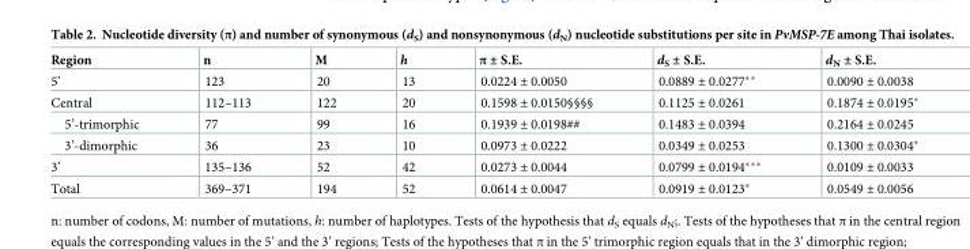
<table><thead><tr><td>Region</td><td>n</td><td>M</td><td>h</td><td>π ± S.E.</td><td>d<sub>S</sub> ± S.E.</td><td>d<sub>N</sub> ± S.E.</td></tr></thead><tbody><tr><td>5’</td><td>123</td><td>20</td><td>13</td><td>0.0224 ± 0.0050</td><td>0.0889 ± 0.0277**</td><td>0.0090 ± 0.0038</td></tr><tr><td>Central</td><td>112–113</td><td>122</td><td>20</td><td>0.1598 ± 0.0150§§§§</td><td>0.1125 ± 0.0261</td><td>0.1874 ± 0.0195*</td></tr><tr><td>5’-trimorphic</td><td>77</td><td>99</td><td>16</td><td>0.1939 ± 0.0198##</td><td>0.1483 ± 0.0394</td><td>0.2164 ± 0.0245</td></tr><tr><td>3’-dimorphic</td><td>36</td><td>23</td><td>10</td><td>0.0973 ± 0.0222</td><td>0.0349 ± 0.0253</td><td>0.1300 ± 0.0304*</td></tr><tr><td>3’</td><td>135–136</td><td>52</td><td>42</td><td>0.0273 ± 0.0044</td><td>0.0799 ± 0.0194***</td><td>0.0109 ± 0.0033</td></tr><tr><td>Total</td><td>369–371</td><td>194</td><td>52</td><td>0.0614 ± 0.0047</td><td>0.0919 ± 0.0123*</td><td>0.0549 ± 0.0056</td></tr></tbody></table>